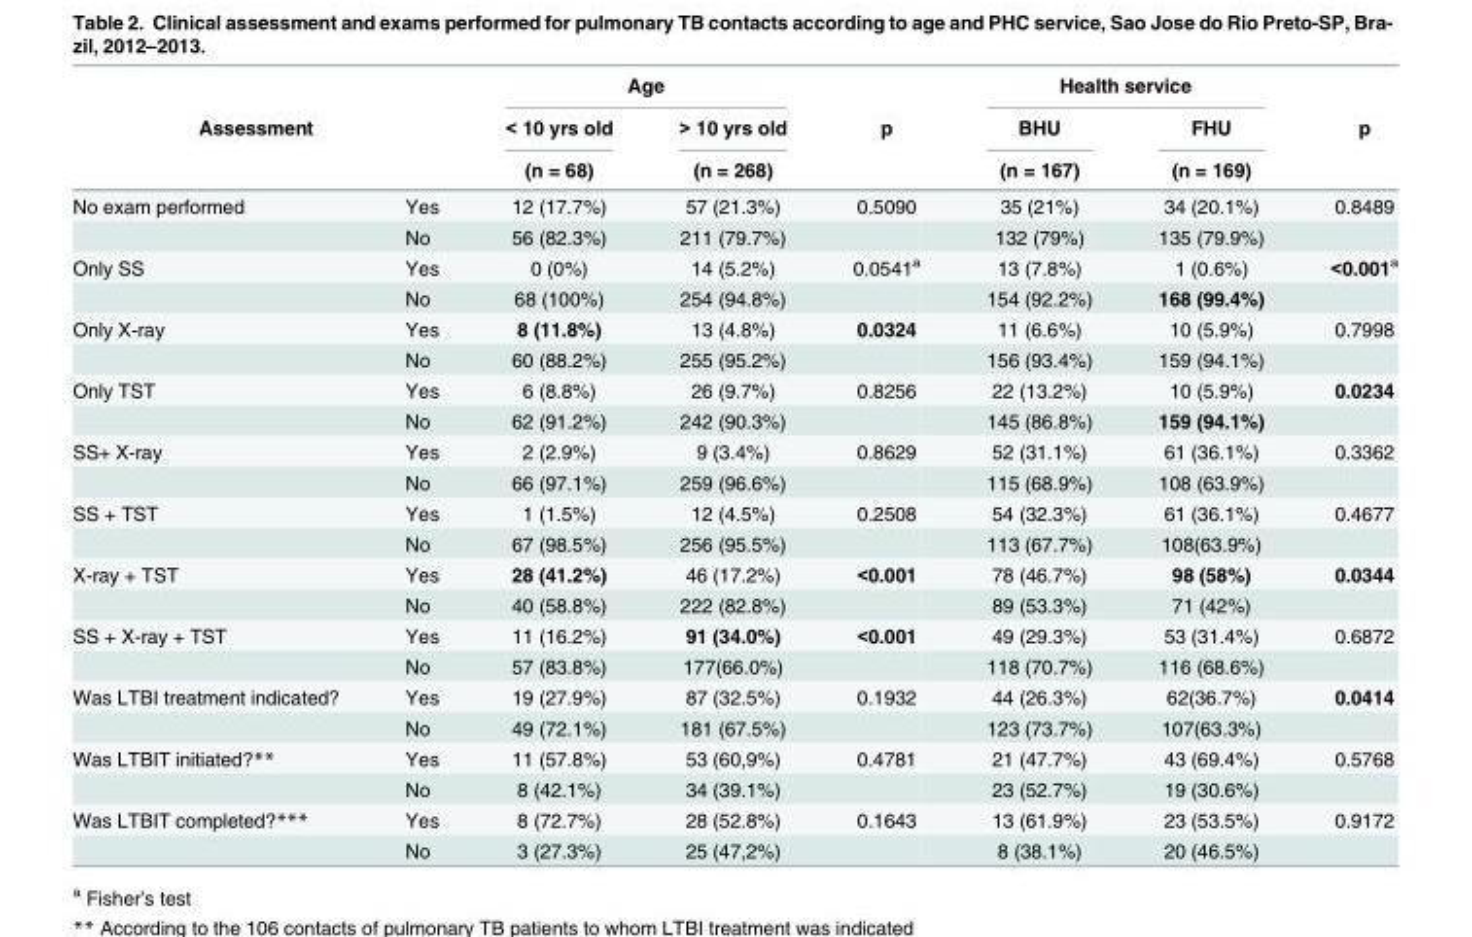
<table><thead><tr><td></td><td></td><td colspan="2">Age</td><td rowspan="3">p</td><td colspan="2">Health service</td><td rowspan="3">p</td></tr><tr><td colspan="2">Assessment</td><td rowspan="2">&lt; 10 yrs old (n = 68)</td><td rowspan="2">&gt; 10 yrs old (n = 268)</td><td rowspan="2">BHU (n = 167)</td><td rowspan="2">FHU (n = 169)</td></tr><tr><td></td><td></td></tr></thead><tbody><tr><td rowspan="2">No exam performed</td><td>Yes</td><td>12 (17.7%)</td><td>57 (21.3%)</td><td>0.5090</td><td>35 (21%)</td><td>34 (20.1%)</td><td>0.8489</td></tr><tr><td>No</td><td>56 (82.3%)</td><td>211 (79.7%)</td><td></td><td>132 (79%)</td><td>135 (79.9%)</td><td></td></tr><tr><td rowspan="2">Only SS</td><td>Yes</td><td>0 (0%)</td><td>14 (5.2%)</td><td>0.0541<sup>a</sup></td><td>13 (7.8%)</td><td>1 (0.6%)</td><td>&lt;0.001<sup>a</sup></td></tr><tr><td>No</td><td>68 (100%)</td><td>254 (94.8%)</td><td></td><td>154 (92.2%)</td><td>168 (99.4%)</td><td></td></tr><tr><td rowspan="2">Only X-ray</td><td>Yes</td><td>8 (11.8%)</td><td>13 (4.8%)</td><td>0.0324</td><td>11 (6.6%)</td><td>10 (5.9%)</td><td>0.7998</td></tr><tr><td>No</td><td>60 (88.2%)</td><td>255 (95.2%)</td><td></td><td>156 (93.4%)</td><td>159 (94.1%)</td><td></td></tr><tr><td rowspan="2">Only TST</td><td>Yes</td><td>6 (8.8%)</td><td>26 (9.7%)</td><td>0.8256</td><td>22 (13.2%)</td><td>10 (5.9%)</td><td>0.0234</td></tr><tr><td>No</td><td>62 (91.2%)</td><td>242 (90.3%)</td><td></td><td>145 (86.8%)</td><td>159 (94.1%)</td><td></td></tr><tr><td rowspan="2">SS+ X-ray</td><td>Yes</td><td>2 (2.9%)</td><td>9 (3.4%)</td><td>0.8629</td><td>52 (31.1%)</td><td>61 (36.1%)</td><td>0.3362</td></tr><tr><td>No</td><td>66 (97.1%)</td><td>259 (96.6%)</td><td></td><td>115 (68.9%)</td><td>108 (63.9%)</td><td></td></tr><tr><td rowspan="2">SS + TST</td><td>Yes</td><td>1 (1.5%)</td><td>12 (4.5%)</td><td>0.2508</td><td>54 (32.3%)</td><td>61 (36.1%)</td><td>0.4677</td></tr><tr><td>No</td><td>67 (98.5%)</td><td>256 (95.5%)</td><td></td><td>113 (67.7%)</td><td>108(63.9%)</td><td></td></tr><tr><td rowspan="2">X-ray + TST</td><td>Yes</td><td>28 (41.2%)</td><td>46 (17.2%)</td><td>&lt;0.001</td><td>78 (46.7%)</td><td>98 (58%)</td><td>0.0344</td></tr><tr><td>No</td><td>40 (58.8%)</td><td>222 (82.8%)</td><td></td><td>89 (53.3%)</td><td>71 (42%)</td><td></td></tr><tr><td rowspan="2">SS + X-ray + TST</td><td>Yes</td><td>11 (16.2%)</td><td>91 (34.0%)</td><td>&lt;0.001</td><td>49 (29.3%)</td><td>53 (31.4%)</td><td>0.6872</td></tr><tr><td>No</td><td>57 (83.8%)</td><td>177(66.0%)</td><td></td><td>118 (70.7%)</td><td>116 (68.6%)</td><td></td></tr><tr><td rowspan="2">Was LTBI treatment indicated?</td><td>Yes</td><td>19 (27.9%)</td><td>87 (32.5%)</td><td>0.1932</td><td>44 (26.3%)</td><td>62(36.7%)</td><td>0.0414</td></tr><tr><td>No</td><td>49 (72.1%)</td><td>181 (67.5%)</td><td></td><td>123 (73.7%)</td><td>107(63.3%)</td><td></td></tr><tr><td rowspan="2">Was LTBIT initiated?**</td><td>Yes</td><td>11 (57.8%)</td><td>53 (60,9%)</td><td>0.4781</td><td>21 (47.7%)</td><td>43 (69.4%)</td><td>0.5768</td></tr><tr><td>No</td><td>8 (42.1%)</td><td>34 (39.1%)</td><td></td><td>23 (52.7%)</td><td>19 (30.6%)</td><td></td></tr><tr><td rowspan="2">Was LTBIT completed?***</td><td>Yes</td><td>8 (72.7%)</td><td>28 (52.8%)</td><td>0.1643</td><td>13 (61.9%)</td><td>23 (53.5%)</td><td>0.9172</td></tr><tr><td>No</td><td>3 (27.3%)</td><td>25 (47,2%)</td><td></td><td>8 (38.1%)</td><td>20 (46.5%)</td><td></td></tr></tbody></table>